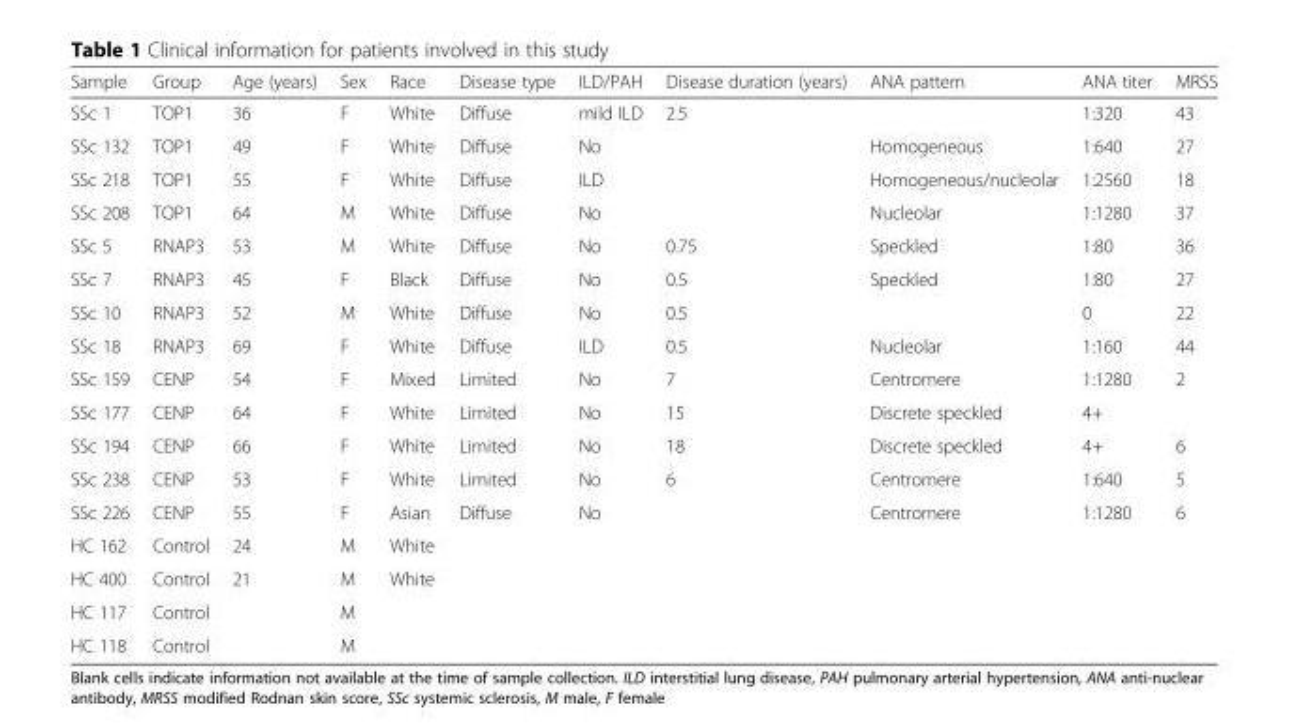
<table><thead><tr><td>Sample</td><td>Group</td><td>Age (years)</td><td>Sex</td><td>Race</td><td>Disease type</td><td>ILD/PAH</td><td>Disease duration (years)</td><td>ANA pattern</td><td>ANA titer</td><td>MRSS</td></tr></thead><tbody><tr><td>SSc 1</td><td>TOP1</td><td>36</td><td>F</td><td>White</td><td>Diffuse</td><td>mild ILD</td><td>2.5</td><td></td><td>1:320</td><td>43</td></tr><tr><td>SSc 132</td><td>TOP1</td><td>49</td><td>F</td><td>White</td><td>Diffuse</td><td>No</td><td></td><td>Homogeneous</td><td>1:640</td><td>27</td></tr><tr><td>SSc 218</td><td>TOP1</td><td>55</td><td>F</td><td>White</td><td>Diffuse</td><td>ILD</td><td></td><td>Homogeneous/nucleolar</td><td>1:2560</td><td>18</td></tr><tr><td>SSc 208</td><td>TOP1</td><td>64</td><td>M</td><td>White</td><td>Diffuse</td><td>No</td><td></td><td>Nucleolar</td><td>1:1280</td><td>37</td></tr><tr><td>SSc 5</td><td>RNAP3</td><td>53</td><td>M</td><td>White</td><td>Diffuse</td><td>No</td><td>0.75</td><td>Speckled</td><td>1:80</td><td>36</td></tr><tr><td>SSc 7</td><td>RNAP3</td><td>45</td><td>F</td><td>Black</td><td>Diffuse</td><td>No</td><td>0.5</td><td>Speckled</td><td>1:80</td><td>27</td></tr><tr><td>SSc 10</td><td>RNAP3</td><td>52</td><td>M</td><td>White</td><td>Diffuse</td><td>No</td><td>0.5</td><td></td><td>0</td><td>22</td></tr><tr><td>SSc 18</td><td>RNAP3</td><td>69</td><td>F</td><td>White</td><td>Diffuse</td><td>ILD</td><td>0.5</td><td>Nucleolar</td><td>1:160</td><td>44</td></tr><tr><td>SSc 159</td><td>CENP</td><td>54</td><td>F</td><td>Mixed</td><td>Limited</td><td>No</td><td>7</td><td>Centromere</td><td>1:1280</td><td>2</td></tr><tr><td>SSc 177</td><td>CENP</td><td>64</td><td>F</td><td>White</td><td>Limited</td><td>No</td><td>15</td><td>Discrete speckled</td><td>4+</td><td></td></tr><tr><td>SSc 194</td><td>CENP</td><td>66</td><td>F</td><td>White</td><td>Limited</td><td>No</td><td>18</td><td>Discrete speckled</td><td>4+</td><td>6</td></tr><tr><td>SSc 238</td><td>CENP</td><td>53</td><td>F</td><td>White</td><td>Limited</td><td>No</td><td>6</td><td>Centromere</td><td>1:640</td><td>5</td></tr><tr><td>SSc 226</td><td>CENP</td><td>55</td><td>F</td><td>Asian</td><td>Diffuse</td><td>No</td><td></td><td>Centromere</td><td>1:1280</td><td>6</td></tr><tr><td>HC 162</td><td>Control</td><td>24</td><td>M</td><td>White</td><td></td><td></td><td></td><td></td><td></td><td></td></tr><tr><td>HC 400</td><td>Control</td><td>21</td><td>M</td><td>White</td><td></td><td></td><td></td><td></td><td></td><td></td></tr><tr><td>HC 117</td><td>Control</td><td></td><td>M</td><td></td><td></td><td></td><td></td><td></td><td></td><td></td></tr><tr><td>HC 118</td><td>Control</td><td></td><td>M</td><td></td><td></td><td></td><td></td><td></td><td></td><td></td></tr></tbody></table>